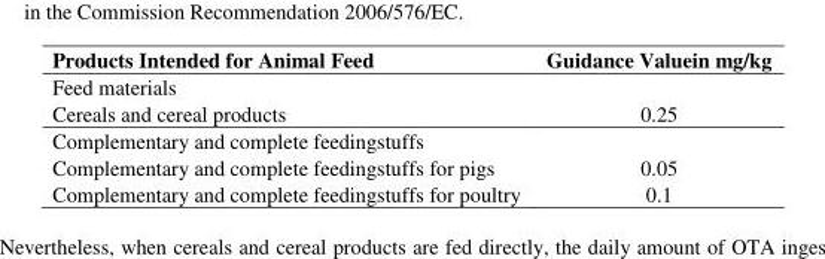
<table><thead><tr><td>Products Intended for Animal Feed</td><td>Guidance Valuein mg/kg</td></tr></thead><tbody><tr><td colspan="2">Feed materials</td></tr><tr><td>Cereals and cereal products</td><td>0.25</td></tr><tr><td colspan="2">Complementary and complete feedingstuffs</td></tr><tr><td>Complementary and complete feedingstuffs for pigs</td><td>0.05</td></tr><tr><td>Complementary and complete feedingstuffs for poultry</td><td>0.1</td></tr></tbody></table>